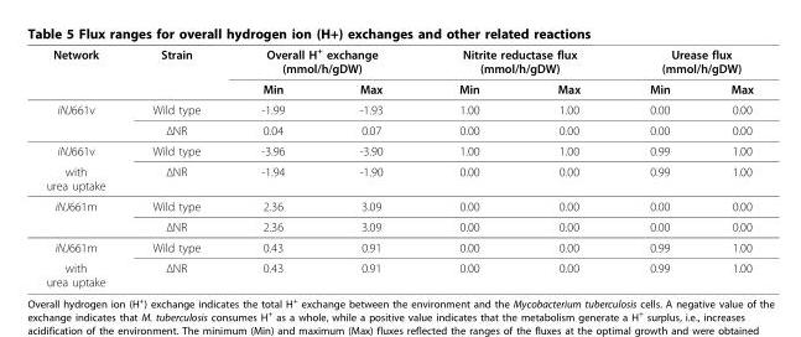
<table><thead><tr><td rowspan="2">Network</td><td rowspan="2">Strain</td><td colspan="2">Overall H<sup>+</sup> exchange (mmol/h/gDW)</td><td colspan="2">Nitrite reductase flux (mmol/h/gDW)</td><td colspan="2">Urease flux (mmol/h/gDW)</td></tr><tr><td>Min</td><td>Max</td><td>Min</td><td>Max</td><td>Min</td><td>Max</td></tr></thead><tbody><tr><td rowspan="2">iNJ661v</td><td>Wild type</td><td>-1.99</td><td>-1.93</td><td>1.00</td><td>1.00</td><td>0.00</td><td>0.00</td></tr><tr><td>ΔNR</td><td>0.04</td><td>0.07</td><td>0.00</td><td>0.00</td><td>0.00</td><td>0.00</td></tr><tr><td>iNJ661v</td><td>Wild type</td><td>-3.96</td><td>-3.90</td><td>1.00</td><td>1.00</td><td>0.99</td><td>1.00</td></tr><tr><td>with urea uptake</td><td>ΔNR</td><td>-1.94</td><td>-1.90</td><td>0.00</td><td>0.00</td><td>0.99</td><td>1.00</td></tr><tr><td rowspan="2">iNJ661m</td><td>Wild type</td><td>2.36</td><td>3.09</td><td>0.00</td><td>0.00</td><td>0.00</td><td>0.00</td></tr><tr><td>ΔNR</td><td>2.36</td><td>3.09</td><td>0.00</td><td>0.00</td><td>0.00</td><td>0.00</td></tr><tr><td>iNJ661m</td><td>Wild type</td><td>0.43</td><td>0.91</td><td>0.00</td><td>0.00</td><td>0.99</td><td>1.00</td></tr><tr><td>with urea uptake</td><td>ΔNR</td><td>0.43</td><td>0.91</td><td>0.00</td><td>0.00</td><td>0.99</td><td>1.00</td></tr></tbody></table>